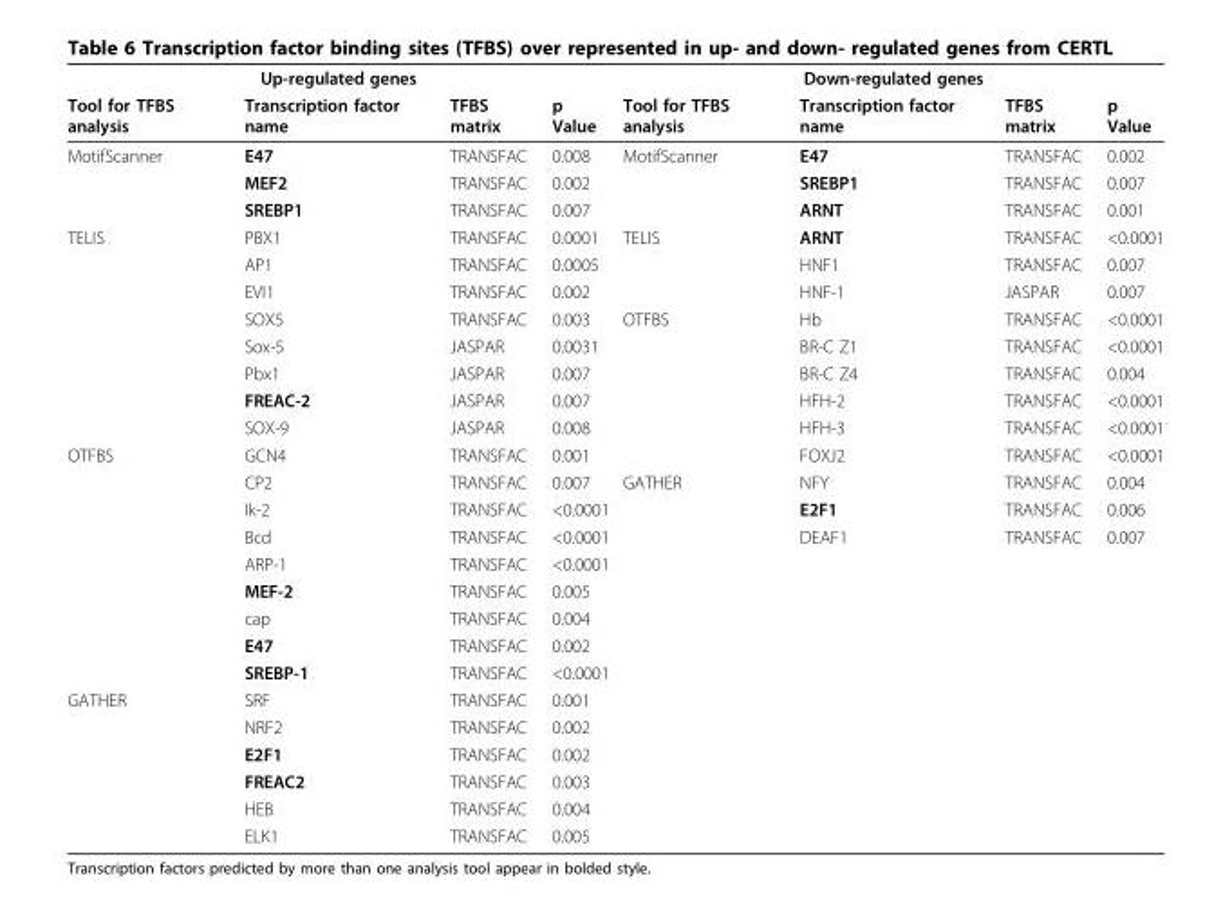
<table><thead><tr><td colspan="4">Up-regulated genes</td><td colspan="4">Down-regulated genes</td></tr><tr><td>Tool for TFBS analysis</td><td>Transcription factor name</td><td>TFBS matrix</td><td>p Value</td><td>Tool for TFBS analysis</td><td>Transcription factor name</td><td>TFBS matrix</td><td>p Value</td></tr></thead><tbody><tr><td rowspan="3">MotifScanner</td><td>E47</td><td>TRANSFAC</td><td>0.008</td><td>MotifScanner</td><td>E47</td><td>TRANSFAC</td><td>0.002</td></tr><tr><td>MEF2</td><td>TRANSFAC</td><td>0.002</td><td></td><td>SREBP1</td><td>TRANSFAC</td><td>0.007</td></tr><tr><td>SREBP1</td><td>TRANSFAC</td><td>0.007</td><td></td><td>ARNT</td><td>TRANSFAC</td><td>0.001</td></tr><tr><td rowspan="8">TELIS</td><td>PBX1</td><td>TRANSFAC</td><td>0.0001</td><td>TELIS</td><td>ARNT</td><td>TRANSFAC</td><td>&lt;0.0001</td></tr><tr><td>AP1</td><td>TRANSFAC</td><td>0.0005</td><td></td><td>HNF1</td><td>TRANSFAC</td><td>0.007</td></tr><tr><td>EVI1</td><td>TRANSFAC</td><td>0.002</td><td></td><td>HNF-1</td><td>JASPAR</td><td>0.007</td></tr><tr><td>SOX5</td><td>TRANSFAC</td><td>0.003</td><td>OTFBS</td><td>Hb</td><td>TRANSFAC</td><td>&lt;0.0001</td></tr><tr><td>Sox-5</td><td>JASPAR</td><td>0.0031</td><td></td><td>BR-C Z1</td><td>TRANSFAC</td><td>&lt;0.0001</td></tr><tr><td>Pbx1</td><td>JASPAR</td><td>0.007</td><td></td><td>BR-C Z4</td><td>TRANSFAC</td><td>0.004</td></tr><tr><td>FREAC-2</td><td>JASPAR</td><td>0.007</td><td></td><td>HFH-2</td><td>TRANSFAC</td><td>&lt;0.0001</td></tr><tr><td>SOX-9</td><td>JASPAR</td><td>0.008</td><td></td><td>HFH-3</td><td>TRANSFAC</td><td>&lt;0.0001</td></tr><tr><td rowspan="9">OTFBS</td><td>GCN4</td><td>TRANSFAC</td><td>0.001</td><td></td><td>FOXJ2</td><td>TRANSFAC</td><td>&lt;0.0001</td></tr><tr><td>CP2</td><td>TRANSFAC</td><td>0.007</td><td>GATHER</td><td>NFY</td><td>TRANSFAC</td><td>0.004</td></tr><tr><td>Ik-2</td><td>TRANSFAC</td><td>&lt;0.0001</td><td></td><td>E2F1</td><td>TRANSFAC</td><td>0.006</td></tr><tr><td>Bcd</td><td>TRANSFAC</td><td>&lt;0.0001</td><td></td><td>DEAF1</td><td>TRANSFAC</td><td>0.007</td></tr><tr><td>ARP-1</td><td>TRANSFAC</td><td>&lt;0.0001</td><td></td><td></td><td></td><td></td></tr><tr><td>MEF-2</td><td>TRANSFAC</td><td>0.005</td><td></td><td></td><td></td><td></td></tr><tr><td>cap</td><td>TRANSFAC</td><td>0.004</td><td></td><td></td><td></td><td></td></tr><tr><td>E47</td><td>TRANSFAC</td><td>0.002</td><td></td><td></td><td></td><td></td></tr><tr><td>SREBP-1</td><td>TRANSFAC</td><td>&lt;0.0001</td><td></td><td></td><td></td><td></td></tr><tr><td rowspan="6">GATHER</td><td>SRF</td><td>TRANSFAC</td><td>0.001</td><td></td><td></td><td></td><td></td></tr><tr><td>NRF2</td><td>TRANSFAC</td><td>0.002</td><td></td><td></td><td></td><td></td></tr><tr><td>E2F1</td><td>TRANSFAC</td><td>0.002</td><td></td><td></td><td></td><td></td></tr><tr><td>FREAC2</td><td>TRANSFAC</td><td>0.003</td><td></td><td></td><td></td><td></td></tr><tr><td>HEB</td><td>TRANSFAC</td><td>0.004</td><td></td><td></td><td></td><td></td></tr><tr><td>ELK1</td><td>TRANSFAC</td><td>0.005</td><td></td><td></td><td></td><td></td></tr></tbody></table>